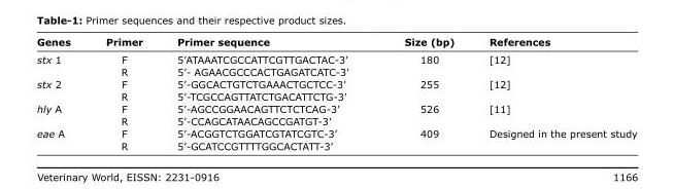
<table><thead><tr><td>Genes</td><td>Primer</td><td>Primer sequence</td><td>Size (bp)</td><td>References</td></tr></thead><tbody><tr><td rowspan="2">stx 1</td><td>F</td><td>5’ATAAATCGCCATTCGTTGACTAC-3’</td><td>180</td><td>[12]</td></tr><tr><td>R</td><td>5’- AGAACGCCCACTGAGATCATC-3’</td><td></td><td></td></tr><tr><td rowspan="2">stx 2</td><td>F</td><td>5’-GGCACTGTCTGAAACTGCTCC-3’</td><td>255</td><td>[12]</td></tr><tr><td>R</td><td>5’-TCGCCAGTTATCTGACATTCTG-3’</td><td></td><td></td></tr><tr><td rowspan="2">hly A</td><td>F</td><td>5’-AGCCGGAACAGTTCTCTCAG-3’</td><td>526</td><td>[11]</td></tr><tr><td>R</td><td>5’-CCAGCATAACAGCCGATGT-3’</td><td></td><td></td></tr><tr><td rowspan="2">eae A</td><td>F</td><td>5’-ACGGTCTGGATCGTATCGTC-3’</td><td>409</td><td>Designed in the present study</td></tr><tr><td>R</td><td>5’-GCATCCGTTTTGGCACTATT-3’</td><td></td><td></td></tr></tbody></table>